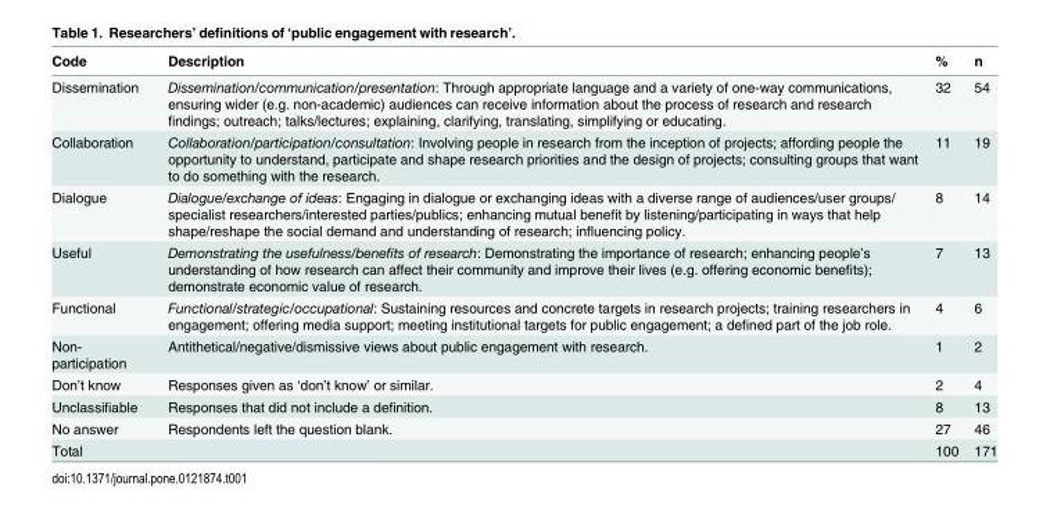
<table><thead><tr><td>Code</td><td>Description</td><td>%</td><td>n</td></tr></thead><tbody><tr><td>Dissemination</td><td>Dissemination/communication/presentation: Through appropriate language and a variety of one-way communications, ensuring wider (e.g. non-academic) audiences can receive information about the process of research and research findings; outreach; talks/lectures; explaining, clarifying, translating, simplifying or educating.</td><td>32</td><td>54</td></tr><tr><td>Collaboration</td><td>Collaboration/participation/consultation: Involving people in research from the inception of projects; affording people the opportunity to understand, participate and shape research priorities and the design of projects; consulting groups that want to do something with the research.</td><td>11</td><td>19</td></tr><tr><td>Dialogue</td><td>Dialogue/exchange of ideas: Engaging in dialogue or exchanging ideas with a diverse range of audiences/user groups/ specialist researchers/interested parties/publics; enhancing mutual benefit by listening/participating in ways that help shape/reshape the social demand and understanding of research; influencing policy.</td><td>8</td><td>14</td></tr><tr><td>Useful</td><td>Demonstrating the usefulness/benefits of research: Demonstrating the importance of research; enhancing people’s understanding of how research can affect their community and improve their lives (e.g. offering economic benefits); demonstrate economic value of research.</td><td>7</td><td>13</td></tr><tr><td>Functional</td><td>Functional/strategic/occupational: Sustaining resources and concrete targets in research projects; training researchers in engagement; offering media support; meeting institutional targets for public engagement; a defined part of the job role.</td><td>4</td><td>6</td></tr><tr><td>Non- participation</td><td>Antithetical/negative/dismissive views about public engagement with research.</td><td>1</td><td>2</td></tr><tr><td>Don’t know</td><td>Responses given as ‘don’t know’ or similar.</td><td>2</td><td>4</td></tr><tr><td>Unclassifiable</td><td>Responses that did not include a definition.</td><td>8</td><td>13</td></tr><tr><td>No answer</td><td>Respondents left the question blank.</td><td>27</td><td>46</td></tr><tr><td>Total</td><td></td><td>100</td><td>171</td></tr></tbody></table>